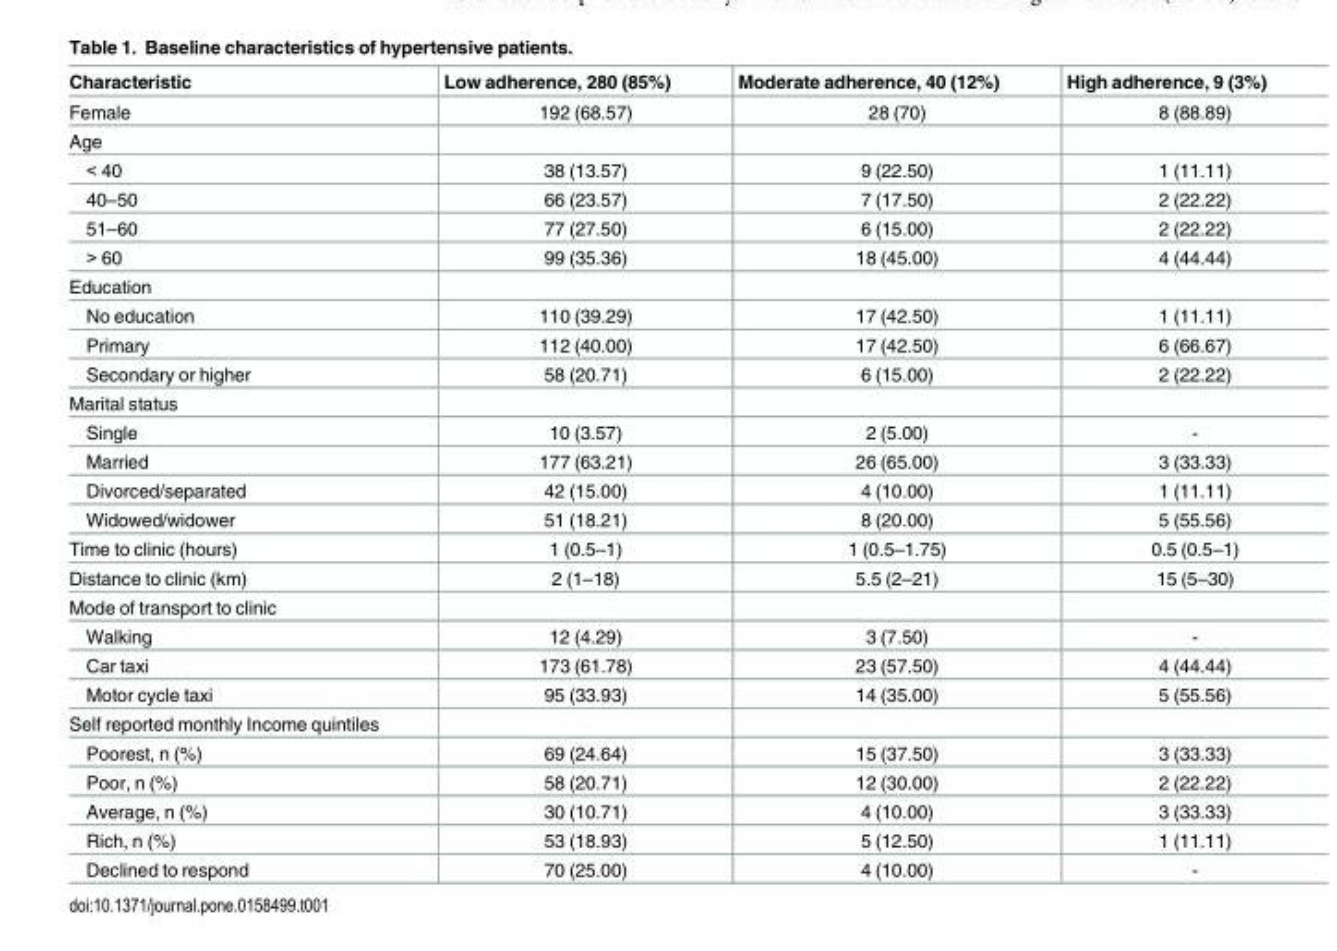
<table><thead><tr><td>Characteristic</td><td>Low adherence, 280 (85%)</td><td>Moderate adherence, 40 (12%)</td><td>High adherence, 9 (3%)</td></tr></thead><tbody><tr><td>Female</td><td>192 (68.57)</td><td>28 (70)</td><td>8 (88.89)</td></tr><tr><td colspan="4">Age</td></tr><tr><td>&lt; 40</td><td>38 (13.57)</td><td>9 (22.50)</td><td>1 (11.11)</td></tr><tr><td>40–50</td><td>66 (23.57)</td><td>7 (17.50)</td><td>2 (22.22)</td></tr><tr><td>51–60</td><td>77 (27.50)</td><td>6 (15.00)</td><td>2 (22.22)</td></tr><tr><td>&gt; 60</td><td>99 (35.36)</td><td>18 (45.00)</td><td>4 (44.44)</td></tr><tr><td colspan="4">Education</td></tr><tr><td>No education</td><td>110 (39.29)</td><td>17 (42.50)</td><td>1 (11.11)</td></tr><tr><td>Primary</td><td>112 (40.00)</td><td>17 (42.50)</td><td>6 (66.67)</td></tr><tr><td>Secondary or higher</td><td>58 (20.71)</td><td>6 (15.00)</td><td>2 (22.22)</td></tr><tr><td colspan="4">Marital status</td></tr><tr><td>Single</td><td>10 (3.57)</td><td>2 (5.00)</td><td>-</td></tr><tr><td>Married</td><td>177 (63.21)</td><td>26 (65.00)</td><td>3 (33.33)</td></tr><tr><td>Divorced/separated</td><td>42 (15.00)</td><td>4 (10.00)</td><td>1 (11.11)</td></tr><tr><td>Widowed/widower</td><td>51 (18.21)</td><td>8 (20.00)</td><td>5 (55.56)</td></tr><tr><td>Time to clinic (hours)</td><td>1 (0.5–1)</td><td>1 (0.5–1.75)</td><td>0.5 (0.5–1)</td></tr><tr><td>Distance to clinic (km)</td><td>2 (1–18)</td><td>5.5 (2–21)</td><td>15 (5–30)</td></tr><tr><td colspan="4">Mode of transport to clinic</td></tr><tr><td>Walking</td><td>12 (4.29)</td><td>3 (7.50)</td><td>-</td></tr><tr><td>Car taxi</td><td>173 (61.78)</td><td>23 (57.50)</td><td>4 (44.44)</td></tr><tr><td>Motor cycle taxi</td><td>95 (33.93)</td><td>14 (35.00)</td><td>5 (55.56)</td></tr><tr><td colspan="4">Self reported monthly Income quintiles</td></tr><tr><td>Poorest, n (%)</td><td>69 (24.64)</td><td>15 (37.50)</td><td>3 (33.33)</td></tr><tr><td>Poor, n (%)</td><td>58 (20.71)</td><td>12 (30.00)</td><td>2 (22.22)</td></tr><tr><td>Average, n (%)</td><td>30 (10.71)</td><td>4 (10.00)</td><td>3 (33.33)</td></tr><tr><td>Rich, n (%)</td><td>53 (18.93)</td><td>5 (12.50)</td><td>1 (11.11)</td></tr><tr><td>Declined to respond</td><td>70 (25.00)</td><td>4 (10.00)</td><td>-</td></tr></tbody></table>